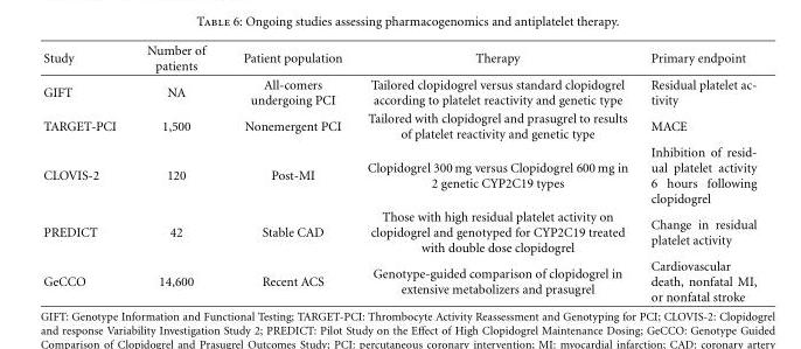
<table><thead><tr><td>Study</td><td>Number of patients</td><td>Patient population</td><td>Therapy</td><td>Primary endpoint</td></tr></thead><tbody><tr><td>GIFT</td><td>NA</td><td>All-comers undergoing PCI</td><td>Tailored clopidogrel versus standard clopidogrel according to platelet reactivity and genetic type</td><td>Residual platelet ac- tivity</td></tr><tr><td>TARGET-PCI</td><td>1,500</td><td>Nonemergent PCI</td><td>Tailored with clopidogrel and prasugrel to results of platelet reactivity and genetic type</td><td>MACE</td></tr><tr><td>CLOVIS-2</td><td>120</td><td>Post-MI</td><td>Clopidogrel 300 mg versus Clopidogrel 600 mg in 2 genetic CYP2C19 types</td><td>Inhibition of resid- ual platelet activity 6 hours following clopidogrel</td></tr><tr><td>PREDICT</td><td>42</td><td>Stable CAD</td><td>Those with high residual platelet activity on clopidogrel and genotyped for CYP2C19 treated with double dose clopidogrel</td><td>Change in residual platelet activity</td></tr><tr><td>GeCCO</td><td>14,600</td><td>Recent ACS</td><td>Genotype-guided comparison of clopidogrel in extensive metabolizers and prasugrel</td><td>Cardiovascular death, nonfatal MI, or nonfatal stroke</td></tr></tbody></table>